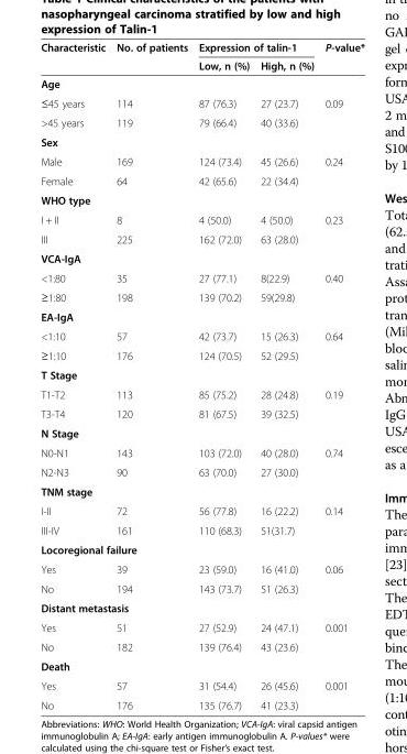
<table><thead><tr><td rowspan="2">Characteristic</td><td rowspan="2">No. of patients</td><td colspan="2">Expression of talin-1</td><td rowspan="2">P-value*</td></tr><tr><td>Low, n (%)</td><td>High, n (%)</td></tr></thead><tbody><tr><td colspan="5">Age</td></tr><tr><td>≤45 years</td><td>114</td><td>87 (76.3)</td><td>27 (23.7)</td><td>0.09</td></tr><tr><td>&gt;45 years</td><td>119</td><td>79 (66.4)</td><td>40 (33.6)</td><td></td></tr><tr><td colspan="5">Sex</td></tr><tr><td>Male</td><td>169</td><td>124 (73.4)</td><td>45 (26.6)</td><td>0.24</td></tr><tr><td>Female</td><td>64</td><td>42 (65.6)</td><td>22 (34.4)</td><td></td></tr><tr><td colspan="5">WHO type</td></tr><tr><td>I + II</td><td>8</td><td>4 (50.0)</td><td>4 (50.0)</td><td>0.23</td></tr><tr><td>III</td><td>225</td><td>162 (72.0)</td><td>63 (28.0)</td><td></td></tr><tr><td colspan="5">VCA-IgA</td></tr><tr><td>&lt;1:80</td><td>35</td><td>27 (77.1)</td><td>8(22.9)</td><td>0.40</td></tr><tr><td>≥1:80</td><td>198</td><td>139 (70.2)</td><td>59(29.8)</td><td></td></tr><tr><td colspan="5">EA-IgA</td></tr><tr><td>&lt;1:10</td><td>57</td><td>42 (73.7)</td><td>15 (26.3)</td><td>0.64</td></tr><tr><td>≥1:10</td><td>176</td><td>124 (70.5)</td><td>52 (29.5)</td><td></td></tr><tr><td colspan="5">T Stage</td></tr><tr><td>T1-T2</td><td>113</td><td>85 (75.2)</td><td>28 (24.8)</td><td>0.19</td></tr><tr><td>T3-T4</td><td>120</td><td>81 (67.5)</td><td>39 (32.5)</td><td></td></tr><tr><td colspan="5">N Stage</td></tr><tr><td>N0-N1</td><td>143</td><td>103 (72.0)</td><td>40 (28.0)</td><td>0.74</td></tr><tr><td>N2-N3</td><td>90</td><td>63 (70.0)</td><td>27 (30.0)</td><td></td></tr><tr><td colspan="5">TNM stage</td></tr><tr><td>I-II</td><td>72</td><td>56 (77.8)</td><td>16 (22.2)</td><td>0.14</td></tr><tr><td>III-IV</td><td>161</td><td>110 (68.3)</td><td>51(31.7)</td><td></td></tr><tr><td colspan="5">Locoregional failure</td></tr><tr><td>Yes</td><td>39</td><td>23 (59.0)</td><td>16 (41.0)</td><td>0.06</td></tr><tr><td>No</td><td>194</td><td>143 (73.7)</td><td>51 (26.3)</td><td></td></tr><tr><td colspan="5">Distant metastasis</td></tr><tr><td>Yes</td><td>51</td><td>27 (52.9)</td><td>24 (47.1)</td><td>0.001</td></tr><tr><td>No</td><td>182</td><td>139 (76.4)</td><td>43 (23.6)</td><td></td></tr><tr><td colspan="5">Death</td></tr><tr><td>Yes</td><td>57</td><td>31 (54.4)</td><td>26 (45.6)</td><td>0.001</td></tr><tr><td>No</td><td>176</td><td>135 (76.7)</td><td>41 (23.3)</td><td></td></tr></tbody></table>